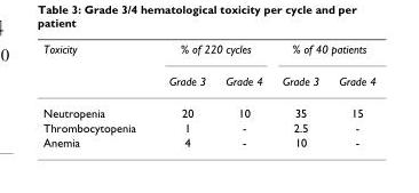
<table><thead><tr><td rowspan="2">Toxicity</td><td colspan="2">% of 220 cycles</td><td colspan="2">% of 40 patients</td></tr><tr><td>Grade 3</td><td>Grade 4</td><td>Grade 3</td><td>Grade 4</td></tr></thead><tbody><tr><td>Neutropenia</td><td>20</td><td>10</td><td>35</td><td>15</td></tr><tr><td>Thrombocytopenia</td><td>1</td><td>-</td><td>2.5</td><td>-</td></tr><tr><td>Anemia</td><td>4</td><td>-</td><td>10</td><td>-</td></tr></tbody></table>